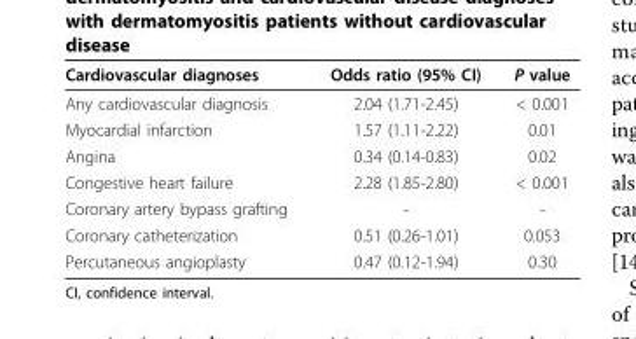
<table><thead><tr><td>Cardiovascular diagnoses</td><td>Odds ratio (95% CI)</td><td>P value</td></tr></thead><tbody><tr><td>Any cardiovascular diagnosis</td><td>2.04 (1.71-2.45)</td><td>&lt; 0.001</td></tr><tr><td>Myocardial infarction</td><td>1.57 (1.11-2.22)</td><td>0.01</td></tr><tr><td>Angina</td><td>0.34 (0.14-0.83)</td><td>0.02</td></tr><tr><td>Congestive heart failure</td><td>2.28 (1.85-2.80)</td><td>&lt; 0.001</td></tr><tr><td>Coronary artery bypass grafting</td><td>-</td><td>-</td></tr><tr><td>Coronary catheterization</td><td>0.51 (0.26-1.01)</td><td>0.053</td></tr><tr><td>Percutaneous angioplasty</td><td>0.47 (0.12-1.94)</td><td>0.30</td></tr></tbody></table>